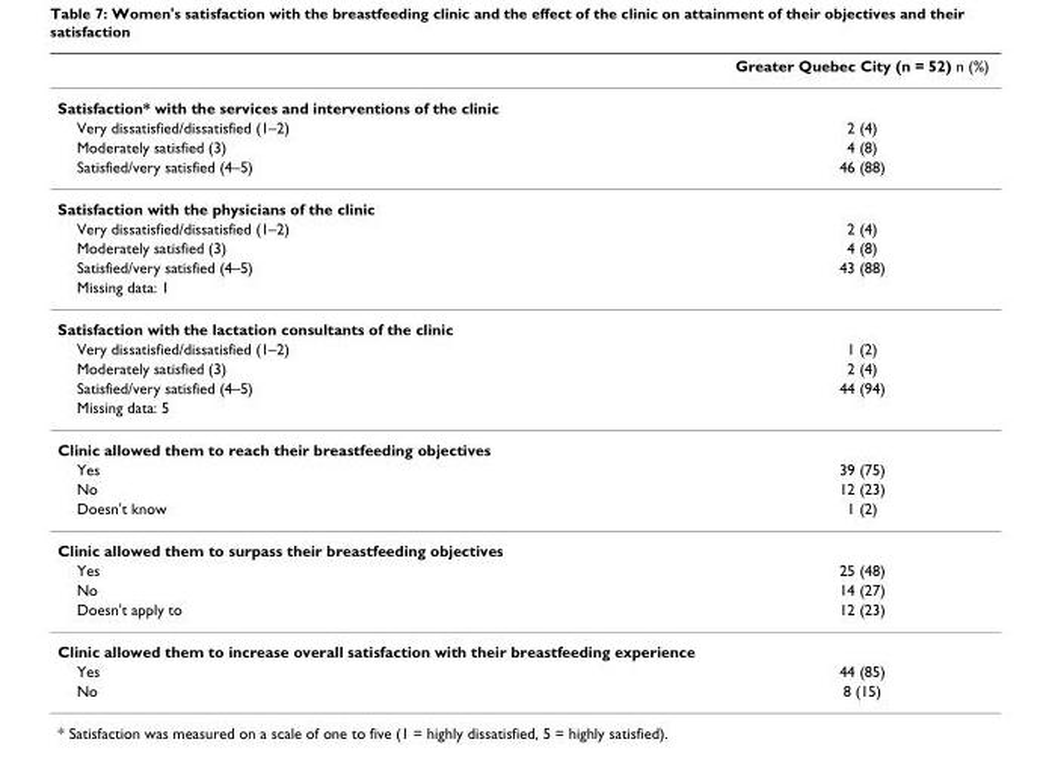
<table><thead><tr><td></td><td>Greater Quebec City (n = 52) n (%)</td></tr></thead><tbody><tr><td colspan="2">Satisfaction* with the services and interventions of the clinic</td></tr><tr><td>Very dissatisfied/dissatisfied (1–2)</td><td>2 (4)</td></tr><tr><td>Moderately satisfied (3)</td><td>4 (8)</td></tr><tr><td>Satisfied/very satisfied (4–5)</td><td>46 (88)</td></tr><tr><td colspan="2">Satisfaction with the physicians of the clinic</td></tr><tr><td>Very dissatisfied/dissatisfied (1–2)</td><td>2 (4)</td></tr><tr><td>Moderately satisfied (3)</td><td>4 (8)</td></tr><tr><td>Satisfied/very satisfied (4–5)</td><td>43 (88)</td></tr><tr><td colspan="2">Missing data: 1</td></tr><tr><td colspan="2">Satisfaction with the lactation consultants of the clinic</td></tr><tr><td>Very dissatisfied/dissatisfied (1–2)</td><td>1 (2)</td></tr><tr><td>Moderately satisfied (3)</td><td>2 (4)</td></tr><tr><td>Satisfied/very satisfied (4–5)</td><td>44 (94)</td></tr><tr><td colspan="2">Missing data: 5</td></tr><tr><td colspan="2">Clinic allowed them to reach their breastfeeding objectives</td></tr><tr><td>Yes</td><td>39 (75)</td></tr><tr><td>No</td><td>12 (23)</td></tr><tr><td>Doesn&#x27;t know</td><td>1 (2)</td></tr><tr><td colspan="2">Clinic allowed them to surpass their breastfeeding objectives</td></tr><tr><td>Yes</td><td>25 (48)</td></tr><tr><td>No</td><td>14 (27)</td></tr><tr><td>Doesn&#x27;t apply to</td><td>12 (23)</td></tr><tr><td colspan="2">Clinic allowed them to increase overall satisfaction with their breastfeeding experience</td></tr><tr><td>Yes</td><td>44 (85)</td></tr><tr><td>No</td><td>8 (15)</td></tr></tbody></table>